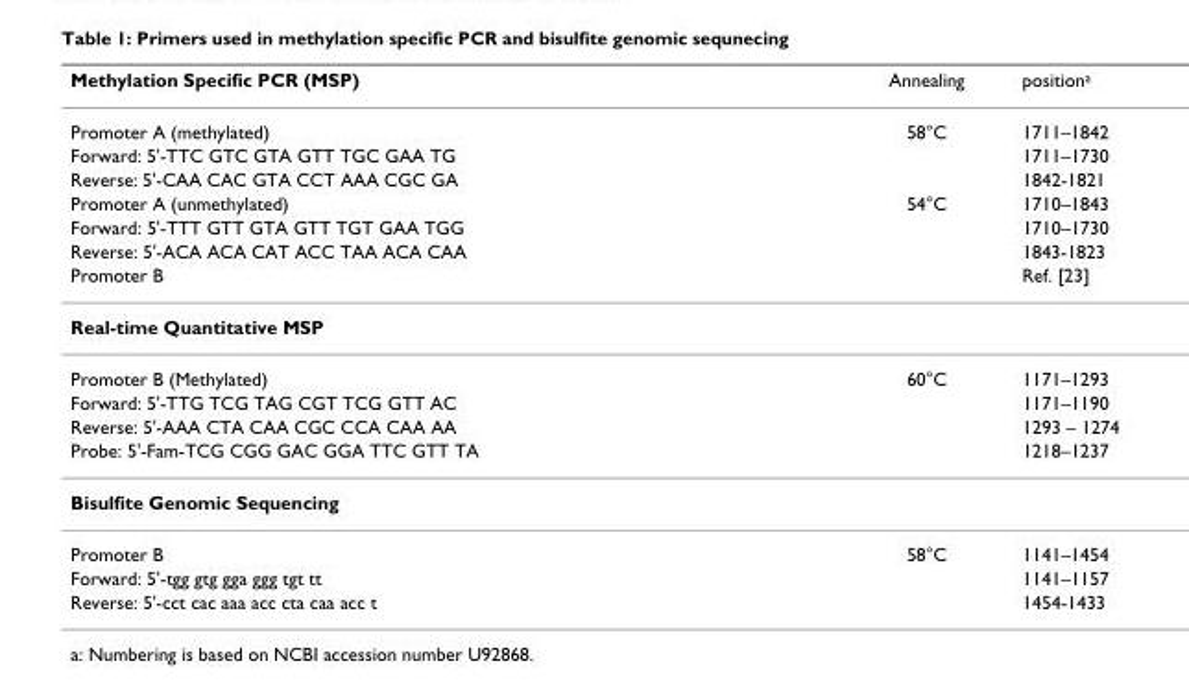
<table><thead><tr><td>Methylation Specific PCR (MSP)</td><td>Annealing</td><td>position<sup>a</sup></td></tr></thead><tbody><tr><td>Promoter A (methylated)</td><td>58°C</td><td>1711–1842</td></tr><tr><td>Forward: 5&#x27;-TTC GTC GTA GTT TGC GAA TG</td><td></td><td>1711–1730</td></tr><tr><td>Reverse: 5&#x27;-CAA CAC GTA CCT AAA CGC GA</td><td></td><td>1842-1821</td></tr><tr><td>Promoter A (unmethylated)</td><td>54°C</td><td>1710–1843</td></tr><tr><td>Forward: 5&#x27;-TTT GTT GTA GTT TGT GAA TGG</td><td></td><td>1710–1730</td></tr><tr><td>Reverse: 5&#x27;-ACA ACA CAT ACC TAA ACA CAA</td><td></td><td>1843-1823</td></tr><tr><td>Promoter B</td><td></td><td>Ref. [23]</td></tr><tr><td colspan="3">Real-time Quantitative MSP</td></tr><tr><td>Promoter B (Methylated)</td><td>60°C</td><td>1171–1293</td></tr><tr><td>Forward: 5&#x27;-TTG TCG TAG CGT TCG GTT AC</td><td></td><td>1171–1190</td></tr><tr><td>Reverse: 5&#x27;-AAA CTA CAA CGC CCA CAA AA</td><td></td><td>1293 – 1274</td></tr><tr><td>Probe: 5&#x27;-Fam-TCG CGG GAC GGA TTC GTT TA</td><td></td><td>1218–1237</td></tr><tr><td colspan="3">Bisulfite Genomic Sequencing</td></tr><tr><td>Promoter B</td><td>58°C</td><td>1141–1454</td></tr><tr><td>Forward: 5&#x27;-tgg gtg gga ggg tgt tt</td><td></td><td>1141–1157</td></tr><tr><td>Reverse: 5&#x27;-cct cac aaa acc cta caa acc t</td><td></td><td>1454-1433</td></tr></tbody></table>